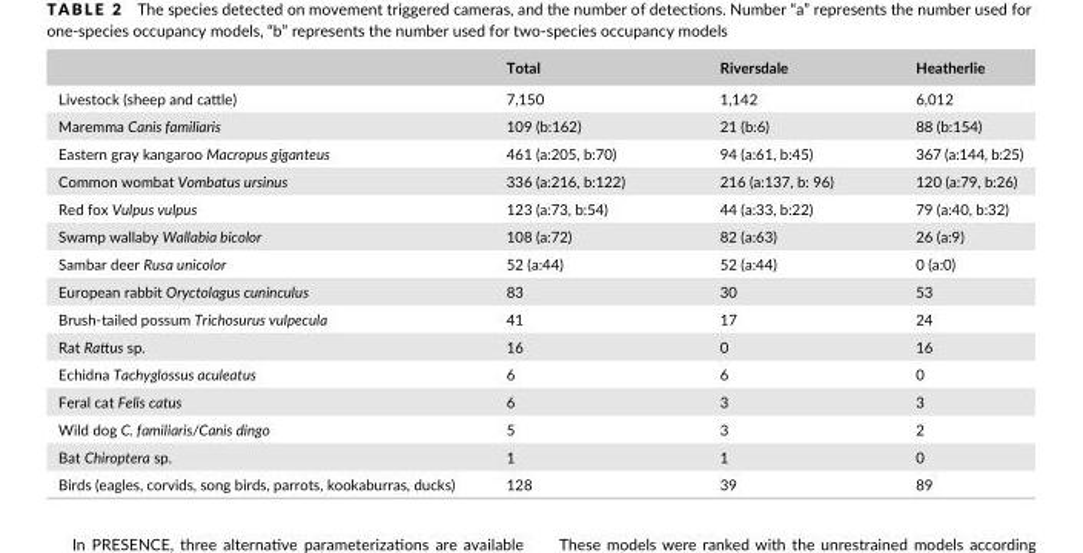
<table><thead><tr><td></td><td>Total</td><td>Riversdale</td><td>Heatherlie</td></tr></thead><tbody><tr><td>Livestock (sheep and cattle)</td><td>7,150</td><td>1,142</td><td>6,012</td></tr><tr><td>Maremma Canis familiaris</td><td>109 (b:162)</td><td>21 (b:6)</td><td>88 (b:154)</td></tr><tr><td>Eastern gray kangaroo Macropus giganteus</td><td>461 (a:205, b:70)</td><td>94 (a:61, b:45)</td><td>367 (a:144, b:25)</td></tr><tr><td>Common wombat Vombatus ursinus</td><td>336 (a:216, b:122)</td><td>216 (a:137, b: 96)</td><td>120 (a:79, b:26)</td></tr><tr><td>Red fox Vulpus vulpus</td><td>123 (a:73, b:54)</td><td>44 (a:33, b:22)</td><td>79 (a:40, b:32)</td></tr><tr><td>Swamp wallaby Wallabia bicolor</td><td>108 (a:72)</td><td>82 (a:63)</td><td>26 (a:9)</td></tr><tr><td>Sambar deer Rusa unicolor</td><td>52 (a:44)</td><td>52 (a:44)</td><td>0 (a:0)</td></tr><tr><td>European rabbit Oryctolagus cuninculus</td><td>83</td><td>30</td><td>53</td></tr><tr><td>Brush- tailed possum Trichosurus vulpecula</td><td>41</td><td>17</td><td>24</td></tr><tr><td>Rat Rattus sp.</td><td>16</td><td>0</td><td>16</td></tr><tr><td>Echidna Tachyglossus aculeatus</td><td>6</td><td>6</td><td>0</td></tr><tr><td>Feral cat Felis catus</td><td>6</td><td>3</td><td>3</td></tr><tr><td>Wild dog C. familiaris/Canis dingo</td><td>5</td><td>3</td><td>2</td></tr><tr><td>Bat Chiroptera sp.</td><td>1</td><td>1</td><td>0</td></tr><tr><td>Birds (eagles, corvids, song birds, parrots, kookaburras, ducks)</td><td>128</td><td>39</td><td>89</td></tr></tbody></table>